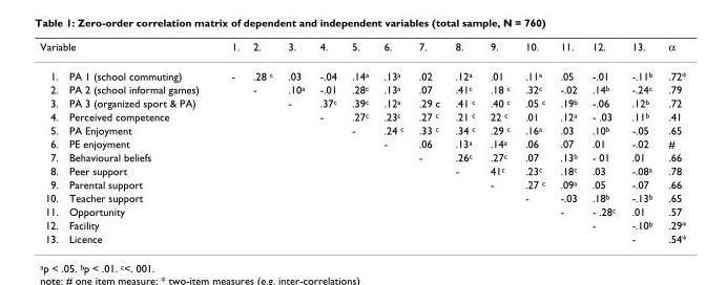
<table><thead><tr><td colspan="2">Variable</td><td rowspan="2">1. -</td><td rowspan="2">2. .28 <sup>c</sup></td><td rowspan="2">3. .03</td><td rowspan="2">4. -.04</td><td rowspan="2">5. .14<sup>a</sup></td><td rowspan="2">6. .13<sup>a</sup></td><td rowspan="2">7. .02</td><td rowspan="2">8. .12a</td><td rowspan="2">9. .01</td><td rowspan="2">10. .11a</td><td rowspan="2">11. .05</td><td rowspan="2">12. -.01</td><td rowspan="2">13. -.11b</td><td rowspan="2">α .72*</td></tr><tr><td>1.</td><td>PA 1 (school commuting)</td></tr></thead><tbody><tr><td>2.</td><td>PA 2 (school informal games)</td><td></td><td>-</td><td>.10<sup>a</sup></td><td>-.01</td><td>.28<sup>c</sup></td><td>.13<sup>a</sup></td><td>.07</td><td>.41<sup>c</sup></td><td>.18 <sup>c</sup></td><td>.32<sup>c</sup></td><td>-.02</td><td>.14<sup>b</sup></td><td>-.24<sup>c</sup></td><td>.79</td></tr><tr><td>3.</td><td>PA 3 (organized sport &amp; PA)</td><td></td><td></td><td>-</td><td>.37<sup>c</sup></td><td>.39<sup>c</sup></td><td>.12<sup>a</sup></td><td>.29 c</td><td>.41 <sup>c</sup></td><td>.40 <sup>c</sup></td><td>.05 <sup>c</sup></td><td>.19<sup>b</sup></td><td>-.06</td><td>.12<sup>b</sup></td><td>.72</td></tr><tr><td>4.</td><td>Perceived competence</td><td></td><td></td><td></td><td>-</td><td>.27<sup>c</sup></td><td>.23<sup>c</sup></td><td>.27 <sup>c</sup></td><td>.21 <sup>c</sup></td><td>22 <sup>c</sup></td><td>.01</td><td>.12<sup>a</sup></td><td>- .03</td><td>.11<sup>b</sup></td><td>.41</td></tr><tr><td>5.</td><td>PA Enjoyment</td><td></td><td></td><td></td><td></td><td>-</td><td>.24 <sup>c</sup></td><td>.33 <sup>c</sup></td><td>.34 <sup>c</sup></td><td>.29 <sup>c</sup></td><td>.16<sup>a</sup></td><td>.03</td><td>.10<sup>b</sup></td><td>-.05</td><td>.65</td></tr><tr><td>6.</td><td>PE enjoyment</td><td></td><td></td><td></td><td></td><td></td><td>-</td><td>.06</td><td>.13<sup>a</sup></td><td>.14<sup>a</sup></td><td>.06</td><td>.07</td><td>.01</td><td>-.02</td><td>#</td></tr><tr><td>7.</td><td>Behavioural beliefs</td><td></td><td></td><td></td><td></td><td></td><td></td><td>-</td><td>.26<sup>c</sup></td><td>.27<sup>c</sup></td><td>.07</td><td>.13<sup>b</sup></td><td>- 01</td><td>.01</td><td>.66</td></tr><tr><td>8.</td><td>Peer support</td><td></td><td></td><td></td><td></td><td></td><td></td><td></td><td>-</td><td>41<sup>c</sup></td><td>.23<sup>c</sup></td><td>.18<sup>c</sup></td><td>.03</td><td>-.08<sup>a</sup></td><td>.78</td></tr><tr><td>9.</td><td>Parental support</td><td></td><td></td><td></td><td></td><td></td><td></td><td></td><td></td><td>-</td><td>.27 <sup>c</sup></td><td>.09<sup>a</sup></td><td>.05</td><td>-.07</td><td>.66</td></tr><tr><td>10.</td><td>Teacher support</td><td></td><td></td><td></td><td></td><td></td><td></td><td></td><td></td><td></td><td>-</td><td>-.03</td><td>.18<sup>b</sup></td><td>-.13<sup>b</sup></td><td>.65</td></tr><tr><td>11.</td><td>Opportunity</td><td></td><td></td><td></td><td></td><td></td><td></td><td></td><td></td><td></td><td></td><td>-</td><td>- .28<sup>c</sup></td><td>.01</td><td>.57</td></tr><tr><td>12.</td><td>Facility</td><td></td><td></td><td></td><td></td><td></td><td></td><td></td><td></td><td></td><td></td><td></td><td>-</td><td>-.10<sup>b</sup></td><td>.29*</td></tr><tr><td>13.</td><td>Licence</td><td></td><td></td><td></td><td></td><td></td><td></td><td></td><td></td><td></td><td></td><td></td><td></td><td>-</td><td>.54*</td></tr></tbody></table>